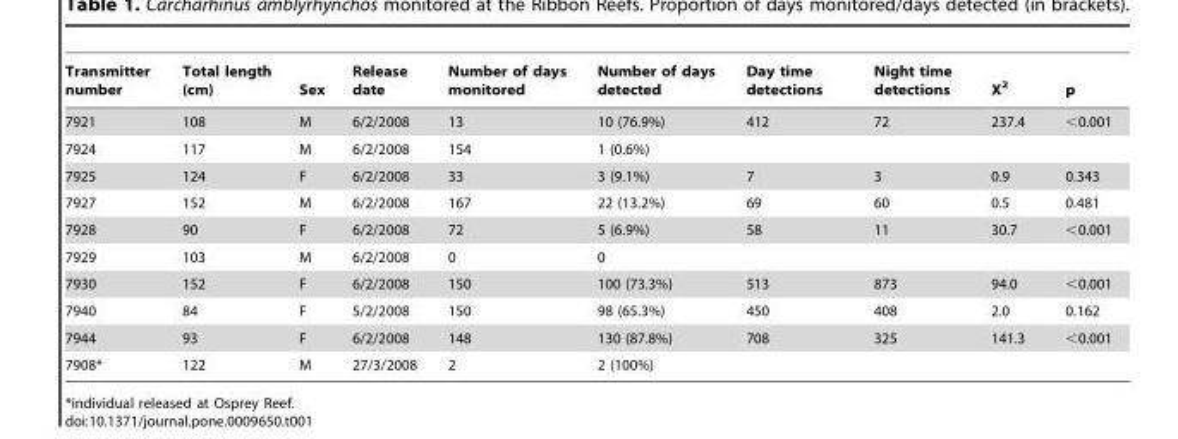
<table><thead><tr><td>Transmitter number</td><td>Total length (cm)</td><td>Sex</td><td>Release date</td><td>Number of days monitored</td><td>Number of days detected</td><td>Day time detections</td><td>Night time detections</td><td>X<sup>2</sup></td><td>p</td></tr></thead><tbody><tr><td>7921</td><td>108</td><td>M</td><td>6/2/2008</td><td>13</td><td>10 (76.9%)</td><td>412</td><td>72</td><td>237.4</td><td>&lt;0.001</td></tr><tr><td>7924</td><td>117</td><td>M</td><td>6/2/2008</td><td>154</td><td>1 (0.6%)</td><td></td><td></td><td></td><td></td></tr><tr><td>7925</td><td>124</td><td>F</td><td>6/2/2008</td><td>33</td><td>3 (9.1%)</td><td>7</td><td>3</td><td>0.9</td><td>0.343</td></tr><tr><td>7927</td><td>152</td><td>M</td><td>6/2/2008</td><td>167</td><td>22 (13.2%)</td><td>69</td><td>60</td><td>0.5</td><td>0.481</td></tr><tr><td>7928</td><td>90</td><td>F</td><td>6/2/2008</td><td>72</td><td>5 (6.9%)</td><td>58</td><td>11</td><td>30.7</td><td>&lt;0.001</td></tr><tr><td>7929</td><td>103</td><td>M</td><td>6/2/2008</td><td>0</td><td>0</td><td></td><td></td><td></td><td></td></tr><tr><td>7930</td><td>152</td><td>F</td><td>6/2/2008</td><td>150</td><td>100 (73.3%)</td><td>513</td><td>873</td><td>94.0</td><td>&lt;0.001</td></tr><tr><td>7940</td><td>84</td><td>F</td><td>5/2/2008</td><td>150</td><td>98 (65.3%)</td><td>450</td><td>408</td><td>2.0</td><td>0.162</td></tr><tr><td>7944</td><td>93</td><td>F</td><td>6/2/2008</td><td>148</td><td>130 (87.8%)</td><td>708</td><td>325</td><td>141.3</td><td>&lt;0.001</td></tr><tr><td>7908*</td><td>122</td><td>M</td><td>27/3/2008</td><td>2</td><td>2 (100%)</td><td></td><td></td><td></td><td></td></tr></tbody></table>